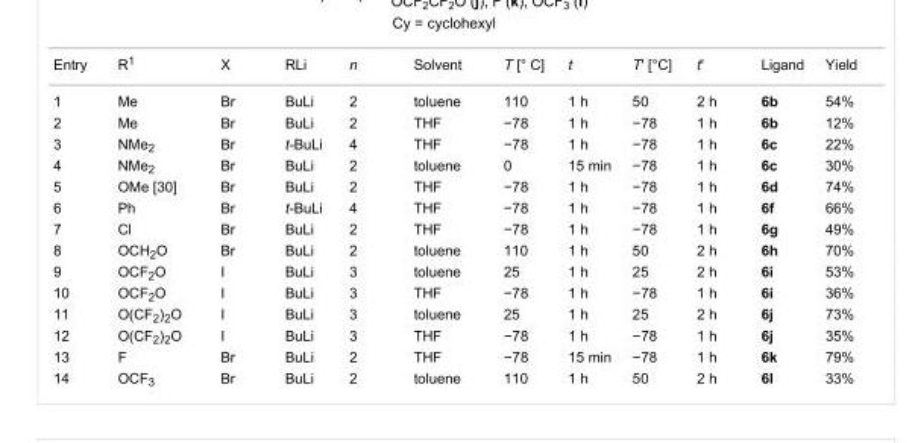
<table><tbody><tr><td>Entry</td><td>R<sup>1</sup></td><td>X</td><td>RLi</td><td>n</td><td>Solvent</td><td>T [° C]</td><td>t</td><td>T&#x27; [°C]</td><td>t&#x27;</td><td>Ligand</td><td>Yield</td></tr><tr><td>1</td><td>Me</td><td>Br</td><td>BuLi</td><td>2</td><td>toluene</td><td>110</td><td>1 h</td><td>50</td><td>2 h</td><td>6b</td><td>54%</td></tr><tr><td>2</td><td>Me</td><td>Br</td><td>BuLi</td><td>2</td><td>THF</td><td>−78</td><td>1 h</td><td>−78</td><td>1 h</td><td>6b</td><td>12%</td></tr><tr><td>3</td><td>NMe<sub>2</sub></td><td>Br</td><td>t-BuLi</td><td>4</td><td>THF</td><td>−78</td><td>1 h</td><td>−78</td><td>1 h</td><td>6c</td><td>22%</td></tr><tr><td>4</td><td>NMe<sub>2</sub></td><td>Br</td><td>BuLi</td><td>2</td><td>toluene</td><td>0</td><td>15 min</td><td>−78</td><td>1 h</td><td>6c</td><td>30%</td></tr><tr><td>5</td><td>OMe [30]</td><td>Br</td><td>BuLi</td><td>2</td><td>THF</td><td>−78</td><td>1 h</td><td>−78</td><td>1 h</td><td>6d</td><td>74%</td></tr><tr><td>6</td><td>Ph</td><td>Br</td><td>t-BuLi</td><td>4</td><td>THF</td><td>−78</td><td>1 h</td><td>−78</td><td>1 h</td><td>6f</td><td>66%</td></tr><tr><td>7</td><td>Cl</td><td>Br</td><td>BuLi</td><td>2</td><td>THF</td><td>−78</td><td>1 h</td><td>−78</td><td>1 h</td><td>6g</td><td>49%</td></tr><tr><td>8</td><td>OCH<sub>2</sub>O</td><td>Br</td><td>BuLi</td><td>2</td><td>toluene</td><td>110</td><td>1 h</td><td>50</td><td>2 h</td><td>6h</td><td>70%</td></tr><tr><td>9</td><td>OCF<sub>2</sub>O</td><td>I</td><td>BuLi</td><td>3</td><td>toluene</td><td>25</td><td>1 h</td><td>25</td><td>2 h</td><td>6i</td><td>53%</td></tr><tr><td>10</td><td>OCF<sub>2</sub>O</td><td>I</td><td>BuLi</td><td>3</td><td>THF</td><td>−78</td><td>1 h</td><td>−78</td><td>1 h</td><td>6i</td><td>36%</td></tr><tr><td>11</td><td>O(CF<sub>2</sub>)<sub>2</sub>O</td><td>I</td><td>BuLi</td><td>3</td><td>toluene</td><td>25</td><td>1 h</td><td>25</td><td>2 h</td><td>6j</td><td>73%</td></tr><tr><td>12</td><td>O(CF<sub>2</sub>)<sub>2</sub>O</td><td>I</td><td>BuLi</td><td>3</td><td>THF</td><td>−78</td><td>1 h</td><td>−78</td><td>1 h</td><td>6j</td><td>35%</td></tr><tr><td>13</td><td>F</td><td>Br</td><td>BuLi</td><td>2</td><td>THF</td><td>−78</td><td>15 min</td><td>−78</td><td>1 h</td><td>6k</td><td>79%</td></tr><tr><td>14</td><td>OCF<sub>3</sub></td><td>Br</td><td>BuLi</td><td>2</td><td>toluene</td><td>110</td><td>1 h</td><td>50</td><td>2 h</td><td>6l</td><td>33%</td></tr></tbody></table>